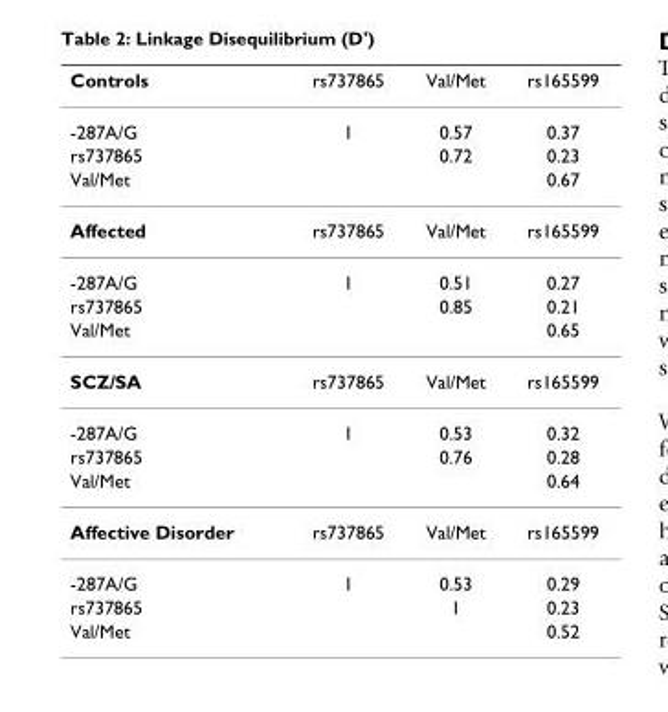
<table><thead><tr><td>Controls</td><td>rs737865</td><td>Val/Met</td><td>rs165599</td></tr></thead><tbody><tr><td>-287A/G</td><td>1</td><td>0.57</td><td>0.37</td></tr><tr><td>rs737865</td><td></td><td>0.72</td><td>0.23</td></tr><tr><td>Val/Met</td><td></td><td></td><td>0.67</td></tr><tr><td>Affected</td><td>rs737865</td><td>Val/Met</td><td>rs165599</td></tr><tr><td>-287A/G</td><td>1</td><td>0.51</td><td>0.27</td></tr><tr><td>rs737865</td><td></td><td>0.85</td><td>0.21</td></tr><tr><td>Val/Met</td><td></td><td></td><td>0.65</td></tr><tr><td>SCZ/SA</td><td>rs737865</td><td>Val/Met</td><td>rs165599</td></tr><tr><td>-287A/G</td><td>1</td><td>0.53</td><td>0.32</td></tr><tr><td>rs737865</td><td></td><td>0.76</td><td>0.28</td></tr><tr><td>Val/Met</td><td></td><td></td><td>0.64</td></tr><tr><td>Affective Disorder</td><td>rs737865</td><td>Val/Met</td><td>rs165599</td></tr><tr><td>-287A/G</td><td>1</td><td>0.53</td><td>0.29</td></tr><tr><td>rs737865</td><td></td><td>1</td><td>0.23</td></tr><tr><td>Val/Met</td><td></td><td></td><td>0.52</td></tr></tbody></table>